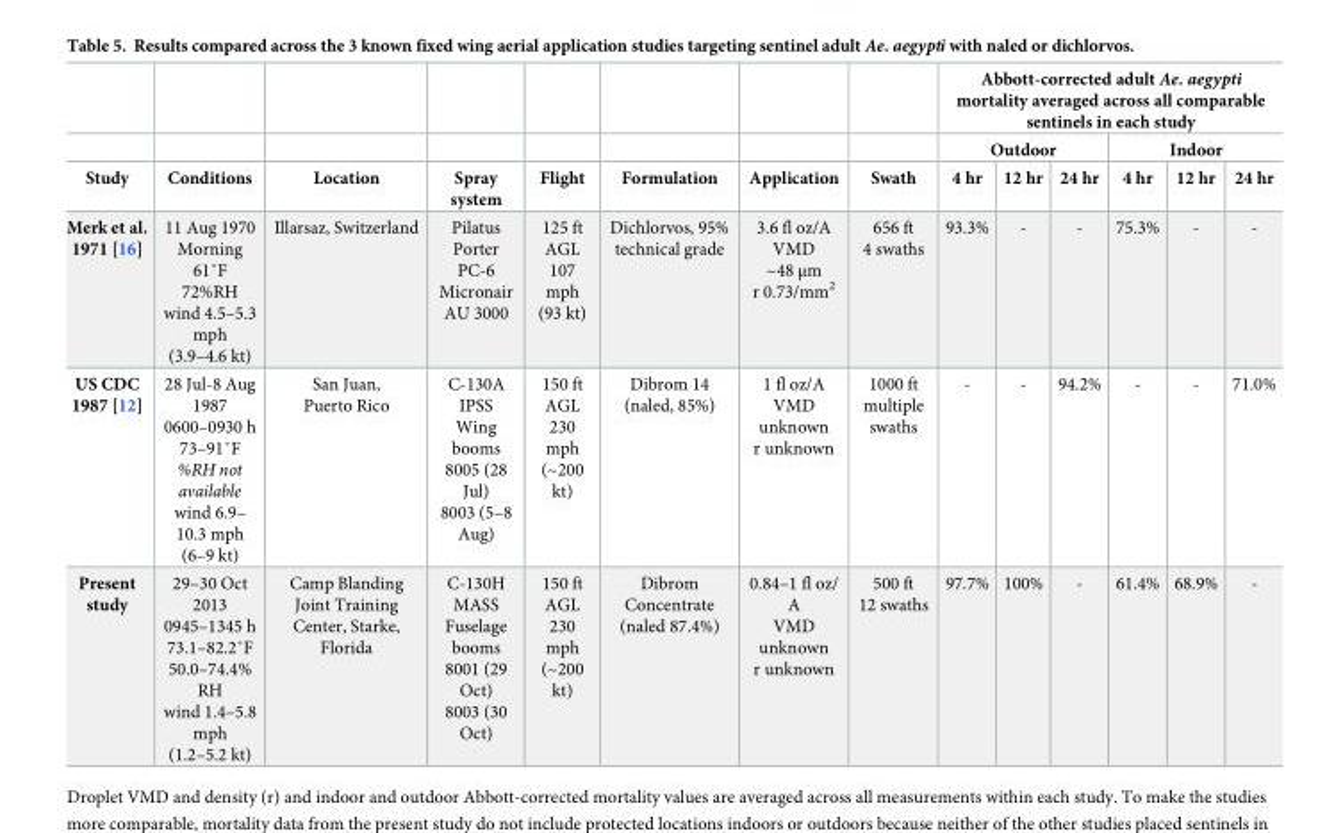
<table><thead><tr><td rowspan="3">Study</td><td rowspan="3">Conditions</td><td rowspan="3">Location</td><td rowspan="3">Spray system</td><td rowspan="3">Flight</td><td rowspan="3">Formulation</td><td rowspan="3">Application</td><td rowspan="3">Swath</td><td colspan="6">Abbott-corrected adult Ae. aegypti mortality averaged across all comparable sentinels in each study</td></tr><tr><td colspan="3">Outdoor</td><td colspan="3">Indoor</td></tr><tr><td>4 hr</td><td>12 hr</td><td>24 hr</td><td>4 hr</td><td>12 hr</td><td>24 hr</td></tr></thead><tbody><tr><td>Merk et al. 1971 [16]</td><td>11 Aug 1970 Morning 61˚F 72%RH wind 4.5–5.3 mph (3.9–4.6 kt)</td><td>Illarsaz, Switzerland</td><td>Pilatus Porter PC-6 Micronair AU 3000</td><td>125 ft AGL 107 mph (93 kt)</td><td>Dichlorvos, 95% technical grade</td><td>3.6 fl oz/A VMD ~48 μm r 0.73/mm<sup>2</sup></td><td>656 ft 4 swaths</td><td>93.3%</td><td>-</td><td>-</td><td>75.3%</td><td>-</td><td>-</td></tr><tr><td>US CDC 1987 [12]</td><td>28 Jul-8 Aug 1987 0600–0930 h 73–91˚F %RH not available wind 6.9– 10.3 mph (6–9 kt)</td><td>San Juan, Puerto Rico</td><td>C-130A IPSS Wing booms 8005 (28 Jul) 8003 (5–8 Aug)</td><td>150 ft AGL 230 mph (~200 kt)</td><td>Dibrom 14 (naled, 85%)</td><td>1 fl oz/A VMD unknown r unknown</td><td>1000 ft multiple swaths</td><td>-</td><td>-</td><td>94.2%</td><td>-</td><td>-</td><td>71.0%</td></tr><tr><td>Present study</td><td>29–30 Oct 2013 0945–1345 h 73.1–82.2˚F 50.0–74.4% RH wind 1.4–5.8 mph (1.2–5.2 kt)</td><td>Camp Blanding Joint Training Center, Starke, Florida</td><td>C-130H MASS Fuselage booms 8001 (29 Oct) 8003 (30 Oct)</td><td>150 ft AGL 230 mph (~200 kt)</td><td>Dibrom Concentrate (naled 87.4%)</td><td>0.84–1 fl oz/ A VMD unknown r unknown</td><td>500 ft 12 swaths</td><td>97.7%</td><td>100%</td><td>-</td><td>61.4%</td><td>68.9%</td><td>-</td></tr></tbody></table>